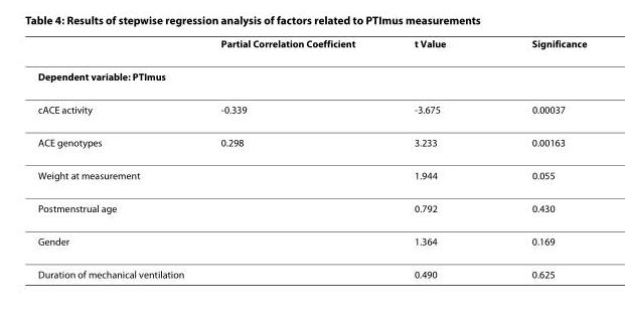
<table><thead><tr><td></td><td>Partial Correlation Coefficient</td><td>t Value</td><td>Significance</td></tr></thead><tbody><tr><td colspan="4">Dependent variable: PTImus</td></tr><tr><td>cACE activity</td><td>-0.339</td><td>-3.675</td><td>0.00037</td></tr><tr><td>ACE genotypes</td><td>0.298</td><td>3.233</td><td>0.00163</td></tr><tr><td>Weight at measurement</td><td></td><td>1.944</td><td>0.055</td></tr><tr><td>Postmenstrual age</td><td></td><td>0.792</td><td>0.430</td></tr><tr><td>Gender</td><td></td><td>1.364</td><td>0.169</td></tr><tr><td>Duration of mechanical ventilation</td><td></td><td>0.490</td><td>0.625</td></tr></tbody></table>